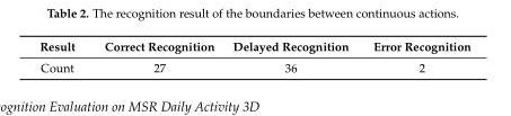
<table><thead><tr><td>Result</td><td>Correct Recognition</td><td>Delayed Recognition</td><td>Error Recognition</td></tr></thead><tbody><tr><td>Count</td><td>27</td><td>36</td><td>2</td></tr></tbody></table>